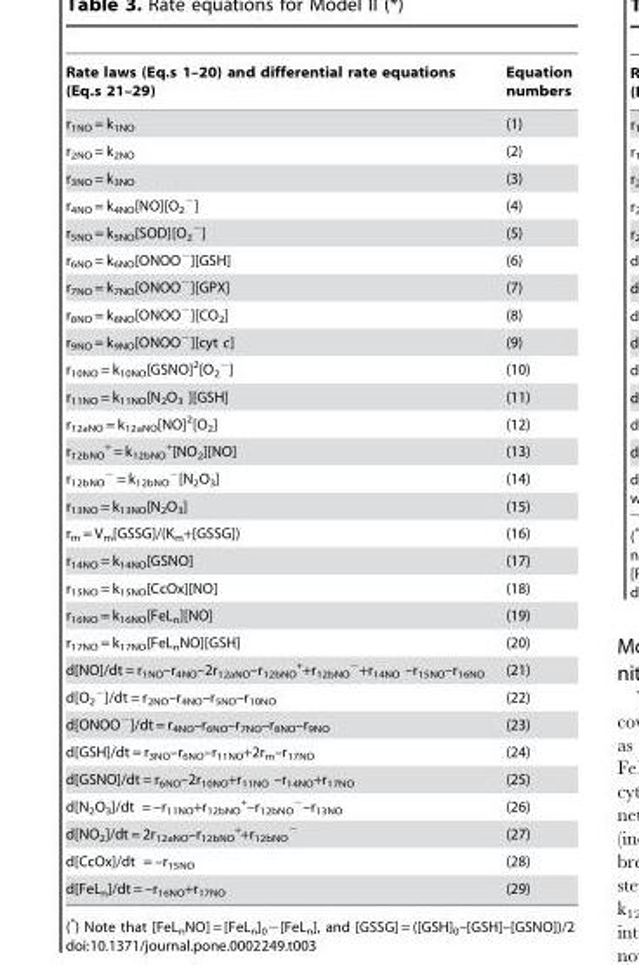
<table><thead><tr><td>Rate laws (Eq.s 1–20) and differential rate equations (Eq.s 21–29)</td><td>Equation numbers</td></tr></thead><tbody><tr><td>r<sub>1NO</sub> = k<sub>1NO</sub></td><td>(1)</td></tr><tr><td>r<sub>2NO</sub> = k<sub>2NO</sub></td><td>(2)</td></tr><tr><td>r<sub>3NO</sub> = k<sub>3NO</sub></td><td>(3)</td></tr><tr><td>r<sub>4NO</sub> = k<sub>4NO</sub>[NO][O<sub>2</sub> <sup>−</sup>]</td><td>(4)</td></tr><tr><td>r<sub>5NO</sub> = k<sub>5NO</sub>[SOD][O<sub>2</sub> <sup>−</sup>]</td><td>(5)</td></tr><tr><td>r<sub>6NO</sub> = k<sub>6NO</sub>[ONOO<sup>−</sup>][GSH]</td><td>(6)</td></tr><tr><td>r<sub>7NO</sub> = k<sub>7NO</sub>[ONOO<sup>−</sup>][GPX]</td><td>(7)</td></tr><tr><td>r<sub>8NO</sub> = k<sub>8NO</sub>[ONOO<sup>−</sup>][CO<sub>2</sub>]</td><td>(8)</td></tr><tr><td>r<sub>9NO</sub> = k<sub>9NO</sub>[ONOO<sup>−</sup>][cyt c]</td><td>(9)</td></tr><tr><td>r<sub>10NO</sub> = k<sub>10NO</sub>[GSNO]<sup>2</sup>[O<sub>2</sub> <sup>−</sup>]</td><td>(10)</td></tr><tr><td>r<sub>11NO</sub> = k<sub>11NO</sub>[N<sub>2</sub>O<sub>3</sub> ][GSH]</td><td>(11)</td></tr><tr><td>r<sub>12aNO</sub> = k<sub>12aNO</sub>[NO]<sup>2</sup>[O<sub>2</sub>]</td><td>(12)</td></tr><tr><td>r<sub>12bNO</sub> <sup>+</sup> = k<sub>12bNO</sub> <sup>+</sup>[NO<sub>2</sub>][NO]</td><td>(13)</td></tr><tr><td>r<sub>12bNO</sub> <sup>−</sup> = k<sub>12bNO</sub> <sup>−</sup>[N<sub>2</sub>O<sub>3</sub>]</td><td>(14)</td></tr><tr><td>r<sub>13NO</sub> = k<sub>13NO</sub>[N<sub>2</sub>O<sub>3</sub>]</td><td>(15)</td></tr><tr><td>r<sub>m</sub> = V<sub>m</sub>[GSSG]/(K<sub>m</sub>+[GSSG])</td><td>(16)</td></tr><tr><td>r<sub>14NO</sub> = k<sub>14NO</sub>[GSNO]</td><td>(17)</td></tr><tr><td>r<sub>15NO</sub> = k<sub>15NO</sub>[CcOx][NO]</td><td>(18)</td></tr><tr><td>r<sub>16NO</sub> = k<sub>16NO</sub>[FeL<sub>n</sub>][NO]</td><td>(19)</td></tr><tr><td>r<sub>17NO</sub> = k<sub>17NO</sub>[FeL<sub>n</sub>NO][GSH]</td><td>(20)</td></tr><tr><td>d[NO]/dt = r<sub>1NO</sub>–r<sub>4NO</sub>–2r<sub>12aNO</sub>–r<sub>12bNO</sub> <sup>+</sup>+r<sub>12bNO</sub> <sup>−</sup>+r<sub>14NO</sub> –r<sub>15NO</sub>–r<sub>16NO</sub></td><td>(21)</td></tr><tr><td>d[O<sub>2</sub> <sup>−</sup>]/dt = r<sub>2NO</sub>–r<sub>4NO</sub>–r<sub>5NO</sub>–r<sub>10NO</sub></td><td>(22)</td></tr><tr><td>d[ONOO<sup>−</sup>]/dt = r<sub>4NO</sub>–r<sub>6NO</sub>–r<sub>7NO</sub>–r<sub>8NO</sub>–r<sub>9NO</sub></td><td>(23)</td></tr><tr><td>d[GSH]/dt = r<sub>3NO</sub>–r<sub>6NO</sub>–r<sub>11NO</sub>+2r<sub>m</sub>–r<sub>17NO</sub></td><td>(24)</td></tr><tr><td>d[GSNO]/dt = r<sub>6NO</sub>–2r<sub>10NO</sub>+r<sub>11NO</sub> –r<sub>14NO</sub>+r<sub>17NO</sub></td><td>(25)</td></tr><tr><td>d[N<sub>2</sub>O<sub>3</sub>]/dt = –r<sub>11NO</sub>+r<sub>12bNO</sub> <sup>+</sup>–r<sub>12bNO</sub> <sup>−</sup>–r<sub>13NO</sub></td><td>(26)</td></tr><tr><td>d[NO<sub>2</sub>]/dt = 2r<sub>12aNO</sub>–r<sub>12bNO</sub> <sup>+</sup>+r<sub>12bNO</sub> <sup>−</sup></td><td>(27)</td></tr><tr><td>d[CcOx]/dt = –r<sub>15NO</sub></td><td>(28)</td></tr><tr><td>d[FeL<sub>n</sub>]/dt = –r<sub>16NO</sub>+r<sub>17NO</sub></td><td>(29)</td></tr></tbody></table>